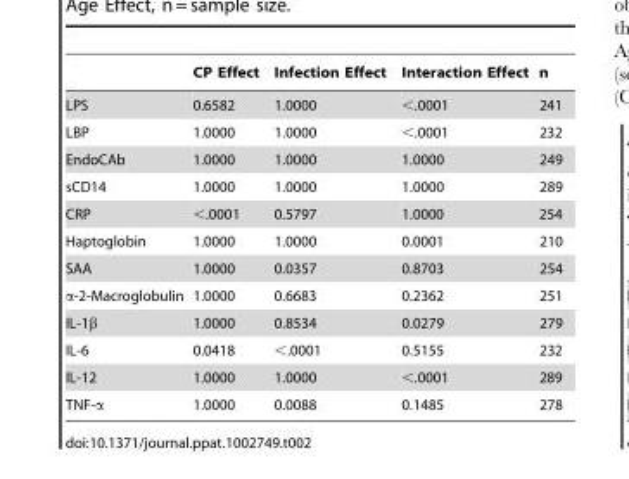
<table><thead><tr><td></td><td>CP Effect</td><td>Infection Effect</td><td>Interaction Effect</td><td>n</td></tr></thead><tbody><tr><td>LPS</td><td>0.6582</td><td>1.0000</td><td>&lt;.0001</td><td>241</td></tr><tr><td>LBP</td><td>1.0000</td><td>1.0000</td><td>&lt;.0001</td><td>232</td></tr><tr><td>EndoCAb</td><td>1.0000</td><td>1.0000</td><td>1.0000</td><td>249</td></tr><tr><td>sCD14</td><td>1.0000</td><td>1.0000</td><td>1.0000</td><td>289</td></tr><tr><td>CRP</td><td>&lt;.0001</td><td>0.5797</td><td>1.0000</td><td>254</td></tr><tr><td>Haptoglobin</td><td>1.0000</td><td>1.0000</td><td>0.0001</td><td>210</td></tr><tr><td>SAA</td><td>1.0000</td><td>0.0357</td><td>0.8703</td><td>254</td></tr><tr><td>α-2-Macroglobulin</td><td>1.0000</td><td>0.6683</td><td>0.2362</td><td>251</td></tr><tr><td>IL-1β</td><td>1.0000</td><td>0.8534</td><td>0.0279</td><td>279</td></tr><tr><td>IL-6</td><td>0.0418</td><td>&lt;.0001</td><td>0.5155</td><td>232</td></tr><tr><td>IL-12</td><td>1.0000</td><td>1.0000</td><td>&lt;.0001</td><td>289</td></tr><tr><td>TNF-α</td><td>1.0000</td><td>0.0088</td><td>0.1485</td><td>278</td></tr></tbody></table>